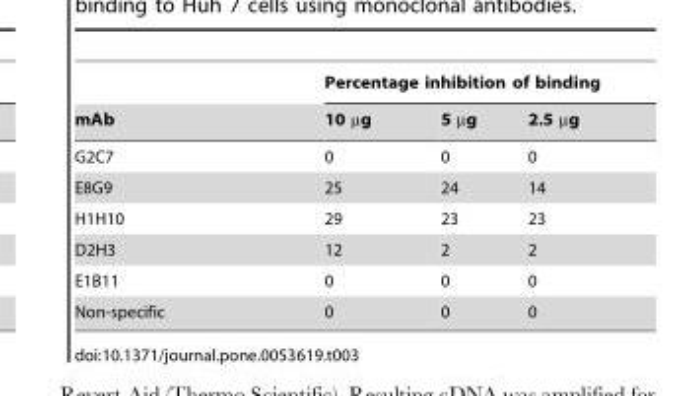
<table><thead><tr><td rowspan="2">mAb</td><td colspan="3">Percentage inhibition of binding</td></tr><tr><td>10 µg</td><td>5 µg</td><td>2.5 µg</td></tr></thead><tbody><tr><td>G2C7</td><td>0</td><td>0</td><td>0</td></tr><tr><td>E8G9</td><td>25</td><td>24</td><td>14</td></tr><tr><td>H1H10</td><td>29</td><td>23</td><td>23</td></tr><tr><td>D2H3</td><td>12</td><td>2</td><td>2</td></tr><tr><td>E1B11</td><td>0</td><td>0</td><td>0</td></tr><tr><td>Non-specific</td><td>0</td><td>0</td><td>0</td></tr></tbody></table>